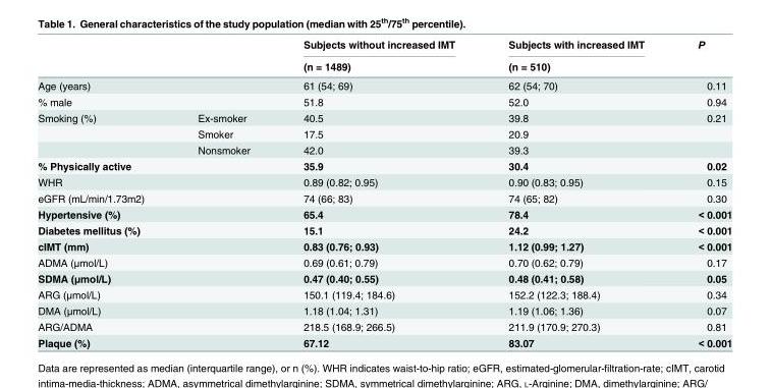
<table><thead><tr><td rowspan="2"></td><td rowspan="2"></td><td rowspan="2">Subjects without increased IMT (n = 1489)</td><td rowspan="2">Subjects with increased IMT (n = 510)</td><td rowspan="2">P</td></tr><tr></tr></thead><tbody><tr><td>Age (years)</td><td></td><td>61 (54; 69)</td><td>62 (54; 70)</td><td>0.11</td></tr><tr><td>% male</td><td></td><td>51.8</td><td>52.0</td><td>0.94</td></tr><tr><td rowspan="3">Smoking (%)</td><td>Ex-smoker</td><td>40.5</td><td>39.8</td><td>0.21</td></tr><tr><td>Smoker</td><td>17.5</td><td>20.9</td><td></td></tr><tr><td>Nonsmoker</td><td>42.0</td><td>39.3</td><td></td></tr><tr><td>% Physically active</td><td></td><td>35.9</td><td>30.4</td><td>0.02</td></tr><tr><td>WHR</td><td></td><td>0.89 (0.82; 0.95)</td><td>0.90 (0.83; 0.95)</td><td>0.15</td></tr><tr><td>eGFR (mL/min/1.73m2)</td><td></td><td>74 (66; 83)</td><td>74 (65; 82)</td><td>0.30</td></tr><tr><td>Hypertensive (%)</td><td></td><td>65.4</td><td>78.4</td><td>&lt; 0.001</td></tr><tr><td>Diabetes mellitus (%)</td><td></td><td>15.1</td><td>24.2</td><td>&lt; 0.001</td></tr><tr><td>cIMT (mm)</td><td></td><td>0.83 (0.76; 0.93)</td><td>1.12 (0.99; 1.27)</td><td>&lt; 0.001</td></tr><tr><td>ADMA (μmol/L)</td><td></td><td>0.69 (0.61; 0.79)</td><td>0.70 (0.62; 0.79)</td><td>0.17</td></tr><tr><td>SDMA (μmol/L)</td><td></td><td>0.47 (0.40; 0.55)</td><td>0.48 (0.41; 0.58)</td><td>0.05</td></tr><tr><td>ARG (μmol/L)</td><td></td><td>150.1 (119.4; 184.6)</td><td>152.2 (122.3; 188.4)</td><td>0.34</td></tr><tr><td>DMA (μmol/L)</td><td></td><td>1.18 (1.04; 1.31)</td><td>1.19 (1.06; 1.36)</td><td>0.07</td></tr><tr><td>ARG/ADMA</td><td></td><td>218.5 (168.9; 266.5)</td><td>211.9 (170.9; 270.3)</td><td>0.81</td></tr><tr><td>Plaque (%)</td><td></td><td>67.12</td><td>83.07</td><td>&lt; 0.001</td></tr></tbody></table>